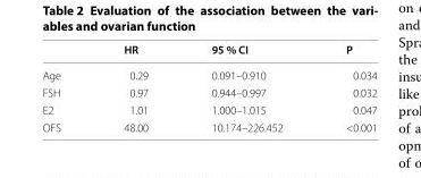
<table><thead><tr><td></td><td>HR</td><td>95 % CI</td><td>P</td></tr></thead><tbody><tr><td>Age</td><td>0.29</td><td>0.091–0.910</td><td>0.034</td></tr><tr><td>FSH</td><td>0.97</td><td>0.944–0.997</td><td>0.032</td></tr><tr><td>E2</td><td>1.01</td><td>1.000–1.015</td><td>0.047</td></tr><tr><td>OFS</td><td>48.00</td><td>10.174–226.452</td><td>&lt;0.001</td></tr></tbody></table>